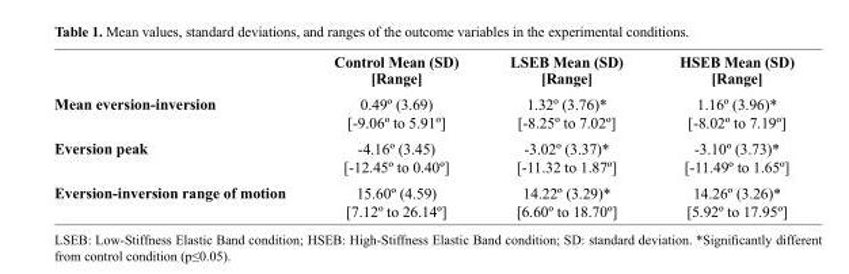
<table><thead><tr><td></td><td>Control Mean (SD) [Range]</td><td>LSEB Mean (SD) [Range]</td><td>HSEB Mean (SD) [Range]</td></tr></thead><tbody><tr><td>Mean eversion-inversion</td><td>0.49º (3.69) [-9.06º to 5.91º]</td><td>1.32º (3.76)* [-8.25º to 7.02º]</td><td>1.16º (3.96)* [-8.02º to 7.19º]</td></tr><tr><td>Eversion peak</td><td>-4.16º (3.45) [-12.45º to 0.40º]</td><td>-3.02º (3.37)* [-11.32 to 1.87º]</td><td>-3.10º (3.73)* [-11.49º to 1.65º]</td></tr><tr><td>Eversion-inversion range of motion</td><td>15.60º (4.59) [7.12º to 26.14º]</td><td>14.22º (3.29)* [6.60º to 18.70º]</td><td>14.26º (3.26)* [5.92º to 17.95º]</td></tr></tbody></table>